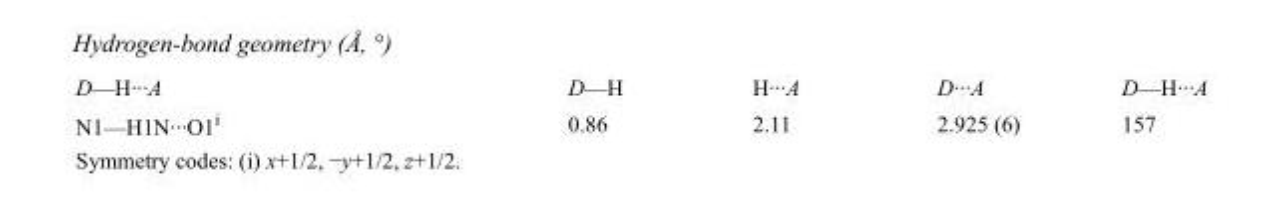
<table><tbody><tr><td>D—H···A</td><td>D—H</td><td>H···A</td><td>D···A</td><td>D—H···A</td></tr><tr><td>N1—H1N···O1<sup>i</sup></td><td>0.86</td><td>2.11</td><td>2.925 (6)</td><td>157</td></tr></tbody></table>